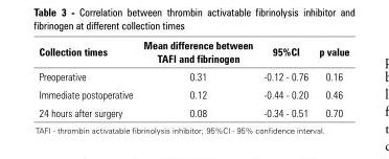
<table><thead><tr><td>Collection times</td><td>Mean difference between TAFI and fibrinogen</td><td>95%CI</td><td>p value</td></tr></thead><tbody><tr><td>Preoperative</td><td>0.31</td><td>-0.12 - 0.76</td><td>0.16</td></tr><tr><td>Immediate postoperative</td><td>0.12</td><td>-0.44 - 0.20</td><td>0.46</td></tr><tr><td>24 hours after surgery</td><td>0.08</td><td>-0.34 - 0.51</td><td>0.70</td></tr></tbody></table>